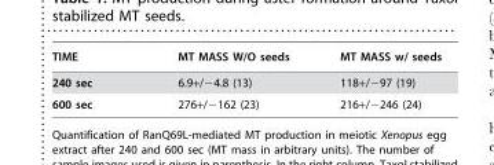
<table><thead><tr><td>TIME</td><td>MT MASS W/O seeds</td><td>MT MASS w/ seeds</td></tr></thead><tbody><tr><td>240 sec</td><td>6.9+/−4.8 (13)</td><td>118+/−97 (19)</td></tr><tr><td>600 sec</td><td>276+/−162 (23)</td><td>216+/−246 (24)</td></tr></tbody></table>